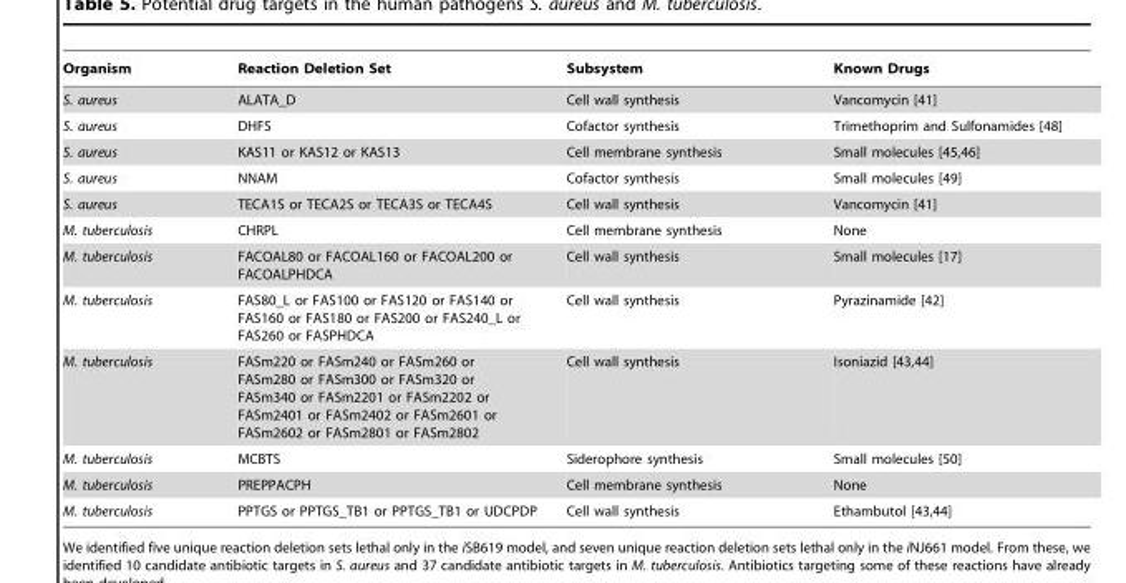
<table><thead><tr><td>Organism</td><td>Reaction Deletion Set</td><td>Subsystem</td><td>Known Drugs</td></tr></thead><tbody><tr><td>S. aureus</td><td>ALATA_D</td><td>Cell wall synthesis</td><td>Vancomycin [41]</td></tr><tr><td>S. aureus</td><td>DHFS</td><td>Cofactor synthesis</td><td>Trimethoprim and Sulfonamides [48]</td></tr><tr><td>S. aureus</td><td>KAS11 or KAS12 or KAS13</td><td>Cell membrane synthesis</td><td>Small molecules [45,46]</td></tr><tr><td>S. aureus</td><td>NNAM</td><td>Cofactor synthesis</td><td>Small molecules [49]</td></tr><tr><td>S. aureus</td><td>TECA1S or TECA2S or TECA3S or TECA4S</td><td>Cell wall synthesis</td><td>Vancomycin [41]</td></tr><tr><td>M. tuberculosis</td><td>CHRPL</td><td>Cell membrane synthesis</td><td>None</td></tr><tr><td>M. tuberculosis</td><td>FACOAL80 or FACOAL160 or FACOAL200 or FACOALPHDCA</td><td>Cell wall synthesis</td><td>Small molecules [17]</td></tr><tr><td>M. tuberculosis</td><td>FAS80_L or FAS100 or FAS120 or FAS140 or FAS160 or FAS180 or FAS200 or FAS240_L or FAS260 or FASPHDCA</td><td>Cell wall synthesis</td><td>Pyrazinamide [42]</td></tr><tr><td>M. tuberculosis</td><td>FASm220 or FASm240 or FASm260 or FASm280 or FASm300 or FASm320 or FASm340 or FASm2201 or FASm2202 or FASm2401 or FASm2402 or FASm2601 or FASm2602 or FASm2801 or FASm2802</td><td>Cell wall synthesis</td><td>Isoniazid [43,44]</td></tr><tr><td>M. tuberculosis</td><td>MCBTS</td><td>Siderophore synthesis</td><td>Small molecules [50]</td></tr><tr><td>M. tuberculosis</td><td>PREPPACPH</td><td>Cell membrane synthesis</td><td>None</td></tr><tr><td>M. tuberculosis</td><td>PPTGS or PPTGS_TB1 or PPTGS_TB1 or UDCPDP</td><td>Cell wall synthesis</td><td>Ethambutol [43,44]</td></tr></tbody></table>